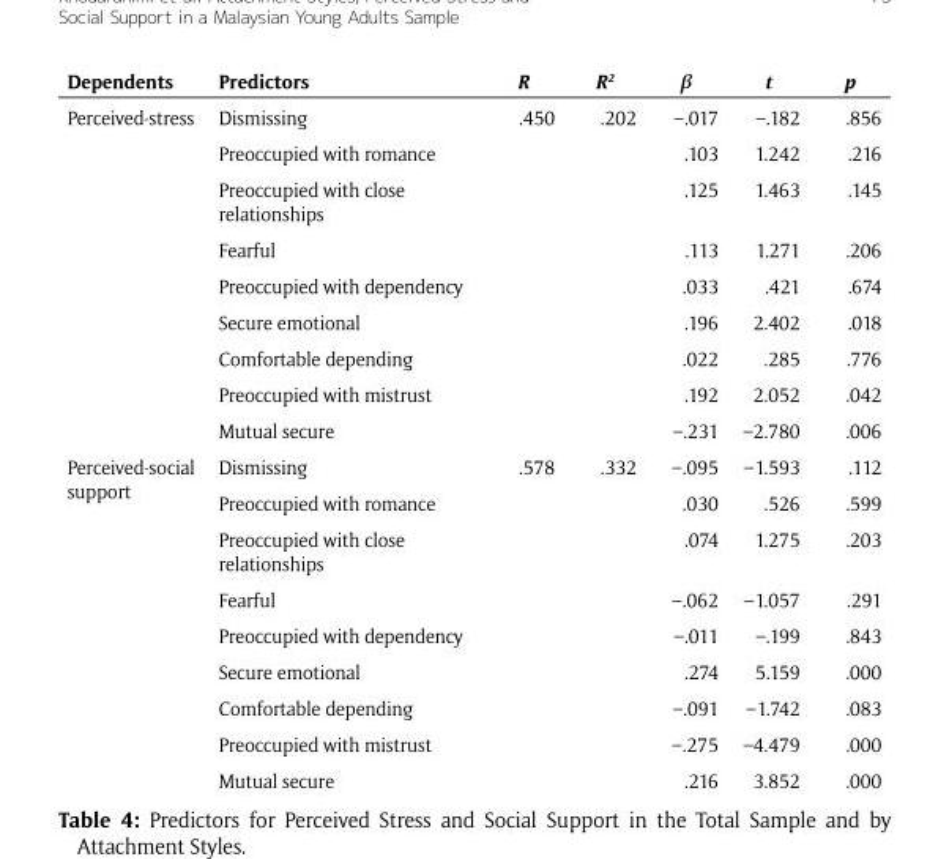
<table><thead><tr><td>Dependents</td><td>Predictors</td><td>R</td><td>R<sup>2</sup></td><td>β</td><td>t</td><td>p</td></tr></thead><tbody><tr><td rowspan="9">Perceived-stress</td><td>Dismissing</td><td>.450</td><td>.202</td><td>−.017</td><td>−.182</td><td>.856</td></tr><tr><td>Preoccupied with romance</td><td></td><td></td><td>.103</td><td>1.242</td><td>.216</td></tr><tr><td>Preoccupied with close relationships</td><td></td><td></td><td>.125</td><td>1.463</td><td>.145</td></tr><tr><td>Fearful</td><td></td><td></td><td>.113</td><td>1.271</td><td>.206</td></tr><tr><td>Preoccupied with dependency</td><td></td><td></td><td>.033</td><td>.421</td><td>.674</td></tr><tr><td>Secure emotional</td><td></td><td></td><td>.196</td><td>2.402</td><td>.018</td></tr><tr><td>Comfortable depending</td><td></td><td></td><td>.022</td><td>.285</td><td>.776</td></tr><tr><td>Preoccupied with mistrust</td><td></td><td></td><td>.192</td><td>2.052</td><td>.042</td></tr><tr><td>Mutual secure</td><td></td><td></td><td>−.231</td><td>−2.780</td><td>.006</td></tr><tr><td rowspan="9">Perceived-social support</td><td>Dismissing</td><td>.578</td><td>.332</td><td>−.095</td><td>−1.593</td><td>.112</td></tr><tr><td>Preoccupied with romance</td><td></td><td></td><td>.030</td><td>.526</td><td>.599</td></tr><tr><td>Preoccupied with close relationships</td><td></td><td></td><td>.074</td><td>1.275</td><td>.203</td></tr><tr><td>Fearful</td><td></td><td></td><td>−.062</td><td>−1.057</td><td>.291</td></tr><tr><td>Preoccupied with dependency</td><td></td><td></td><td>−.011</td><td>−.199</td><td>.843</td></tr><tr><td>Secure emotional</td><td></td><td></td><td>.274</td><td>5.159</td><td>.000</td></tr><tr><td>Comfortable depending</td><td></td><td></td><td>−.091</td><td>−1.742</td><td>.083</td></tr><tr><td>Preoccupied with mistrust</td><td></td><td></td><td>−.275</td><td>−4.479</td><td>.000</td></tr><tr><td>Mutual secure</td><td></td><td></td><td>.216</td><td>3.852</td><td>.000</td></tr></tbody></table>